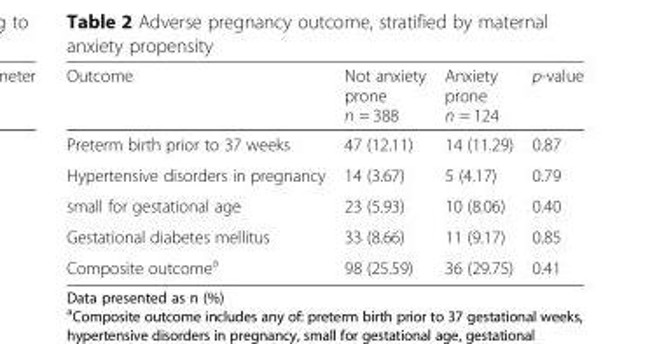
<table><thead><tr><td>Outcome</td><td>Not anxiety prone n = 388</td><td>Anxiety prone n = 124</td><td>p-value</td></tr></thead><tbody><tr><td>Preterm birth prior to 37 weeks</td><td>47 (12.11)</td><td>14 (11.29)</td><td>0.87</td></tr><tr><td>Hypertensive disorders in pregnancy</td><td>14 (3.67)</td><td>5 (4.17)</td><td>0.79</td></tr><tr><td>small for gestational age</td><td>23 (5.93)</td><td>10 (8.06)</td><td>0.40</td></tr><tr><td>Gestational diabetes mellitus</td><td>33 (8.66)</td><td>11 (9.17)</td><td>0.85</td></tr><tr><td>Composite outcome<sup>a</sup></td><td>98 (25.59)</td><td>36 (29.75)</td><td>0.41</td></tr></tbody></table>